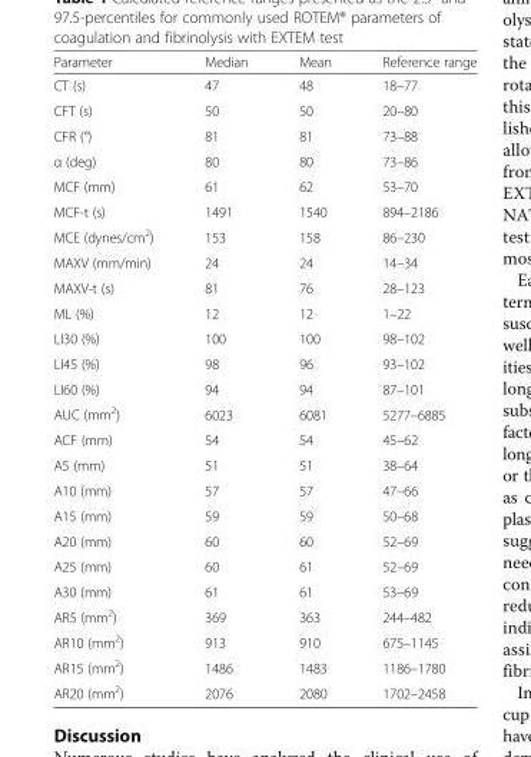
<table><thead><tr><td>Parameter</td><td>Median</td><td>Mean</td><td>Reference range</td></tr></thead><tbody><tr><td>CT (s)</td><td>47</td><td>48</td><td>18–77</td></tr><tr><td>CFT (s)</td><td>50</td><td>50</td><td>20–80</td></tr><tr><td>CFR (°)</td><td>81</td><td>81</td><td>73–88</td></tr><tr><td>α (deg)</td><td>80</td><td>80</td><td>73–86</td></tr><tr><td>MCF (mm)</td><td>61</td><td>62</td><td>53–70</td></tr><tr><td>MCF-t (s)</td><td>1491</td><td>1540</td><td>894–2186</td></tr><tr><td>MCE (dynes/cm<sup>2</sup>)</td><td>153</td><td>158</td><td>86–230</td></tr><tr><td>MAXV (mm/min)</td><td>24</td><td>24</td><td>14–34</td></tr><tr><td>MAXV-t (s)</td><td>81</td><td>76</td><td>28–123</td></tr><tr><td>ML (%)</td><td>12</td><td>12</td><td>1–22</td></tr><tr><td>LI30 (%)</td><td>100</td><td>100</td><td>98–102</td></tr><tr><td>LI45 (%)</td><td>98</td><td>96</td><td>93–102</td></tr><tr><td>LI60 (%)</td><td>94</td><td>94</td><td>87–101</td></tr><tr><td>AUC (mm<sup>2</sup>)</td><td>6023</td><td>6081</td><td>5277–6885</td></tr><tr><td>ACF (mm)</td><td>54</td><td>54</td><td>45–62</td></tr><tr><td>A5 (mm)</td><td>51</td><td>51</td><td>38–64</td></tr><tr><td>A10 (mm)</td><td>57</td><td>57</td><td>47–66</td></tr><tr><td>A15 (mm)</td><td>59</td><td>59</td><td>50–68</td></tr><tr><td>A20 (mm)</td><td>60</td><td>60</td><td>52–69</td></tr><tr><td>A25 (mm)</td><td>60</td><td>61</td><td>52–69</td></tr><tr><td>A30 (mm)</td><td>61</td><td>61</td><td>53–69</td></tr><tr><td>AR5 (mm<sup>2</sup>)</td><td>369</td><td>363</td><td>244–482</td></tr><tr><td>AR10 (mm<sup>2</sup>)</td><td>913</td><td>910</td><td>675–1145</td></tr><tr><td>AR15 (mm<sup>2</sup>)</td><td>1486</td><td>1483</td><td>1186–1780</td></tr><tr><td>AR20 (mm<sup>2</sup>)</td><td>2076</td><td>2080</td><td>1702–2458</td></tr></tbody></table>